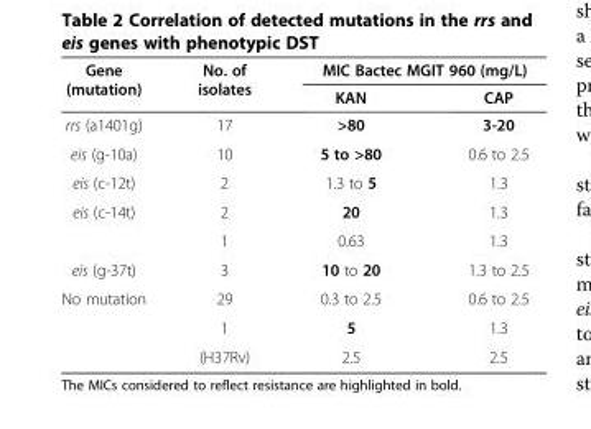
<table><thead><tr><td rowspan="2">Gene (mutation)</td><td rowspan="2">No. of isolates</td><td colspan="2">MIC Bactec MGIT 960 (mg/L)</td></tr><tr><td>KAN</td><td>CAP</td></tr></thead><tbody><tr><td>rrs (a1401g)</td><td>17</td><td>&gt;80</td><td>3-20</td></tr><tr><td>eis (g-10a)</td><td>10</td><td>5 to &gt;80</td><td>0.6 to 2.5</td></tr><tr><td>eis (c-12t)</td><td>2</td><td>1.3 to 5</td><td>1.3</td></tr><tr><td rowspan="2">eis (c-14t)</td><td>2</td><td>20</td><td>1.3</td></tr><tr><td>1</td><td>0.63</td><td>1.3</td></tr><tr><td>eis (g-37t)</td><td>3</td><td>10 to 20</td><td>1.3 to 2.5</td></tr><tr><td rowspan="3">No mutation</td><td>29</td><td>0.3 to 2.5</td><td>0.6 to 2.5</td></tr><tr><td>1</td><td>5</td><td>1.3</td></tr><tr><td>(H37Rv)</td><td>2.5</td><td>2.5</td></tr></tbody></table>